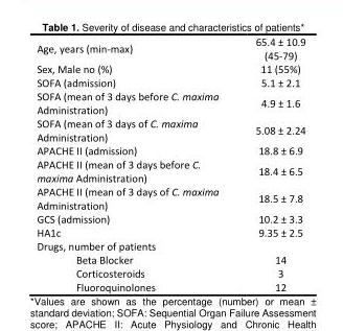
<table><tbody><tr><td>Age, years (min-max)</td><td>65.4 ± 10.9 (45-79)</td></tr><tr><td>Sex, Male no (%)</td><td>11 (55%)</td></tr><tr><td>SOFA (admission)</td><td>5.1 ± 2.1</td></tr><tr><td>SOFA (mean of 3 days before C. maxima Administration)</td><td>4.9 ± 1.6</td></tr><tr><td>SOFA (mean of 3 days of C. maxima Administration)</td><td>5.08 ± 2.24</td></tr><tr><td>APACHE II (admission)</td><td>18.8 ± 6.9</td></tr><tr><td>APACHE II (mean of 3 days before C. maxima Administration)</td><td>18.4 ± 6.5</td></tr><tr><td>APACHE II (mean of 3 days of C. maxima Administration)</td><td>18.5 ± 7.8</td></tr><tr><td>GCS (admission)</td><td>10.2 ± 3.3</td></tr><tr><td>HA1c</td><td>9.35 ± 2.5</td></tr><tr><td colspan="2">Drugs, number of patients</td></tr><tr><td>Beta Blocker</td><td>14</td></tr><tr><td>Corticosteroids</td><td>3</td></tr><tr><td>Fluoroquinolones</td><td>12</td></tr></tbody></table>